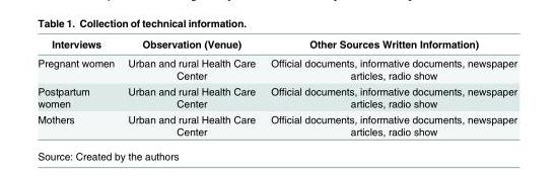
<table><thead><tr><td>Interviews</td><td>Observation (Venue)</td><td>Other Sources Written Information)</td></tr></thead><tbody><tr><td>Pregnant women</td><td>Urban and rural Health Care Center</td><td>Official documents, informative documents, newspaper articles, radio show</td></tr><tr><td>Postpartum women</td><td>Urban and rural Health Care Center</td><td>Official documents, informative documents, newspaper articles, radio show</td></tr><tr><td>Mothers</td><td>Urban and rural Health Care Center</td><td>Official documents, informative documents, newspaper articles, radio show</td></tr></tbody></table>